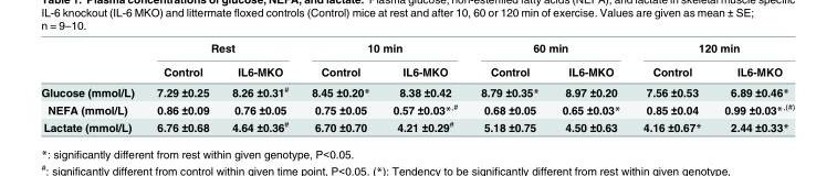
<table><thead><tr><td rowspan="2"></td><td colspan="2">Rest</td><td colspan="2">10 min</td><td colspan="2">60 min</td><td colspan="2">120 min</td></tr><tr><td>Control</td><td>IL6-MKO</td><td>Control</td><td>IL6-MKO</td><td>Control</td><td>IL6-MKO</td><td>Control</td><td>IL6-MKO</td></tr></thead><tbody><tr><td>Glucose (mmol/L)</td><td>7.29 ±0.25</td><td>8.26 ±0.31<sup>#</sup></td><td>8.45 ±0.20*</td><td>8.38 ±0.42</td><td>8.79 ±0.35*</td><td>8.97 ±0.20</td><td>7.56 ±0.53</td><td>6.89 ±0.46*</td></tr><tr><td>NEFA (mmol/L)</td><td>0.86 ±0.09</td><td>0.76 ±0.05</td><td>0.75 ±0.05</td><td>0.57 ±0.03*<sup>,#</sup></td><td>0.68 ±0.05</td><td>0.65 ±0.03*</td><td>0.85 ±0.04</td><td>0.99 ±0.03*<sup>,(#)</sup></td></tr><tr><td>Lactate (mmol/L)</td><td>6.76 ±0.68</td><td>4.64 ±0.36<sup>#</sup></td><td>6.70 ±0.70</td><td>4.21 ±0.29<sup>#</sup></td><td>5.18 ±0.75</td><td>4.50 ±0.63</td><td>4.16 ±0.67*</td><td>2.44 ±0.33*</td></tr></tbody></table>